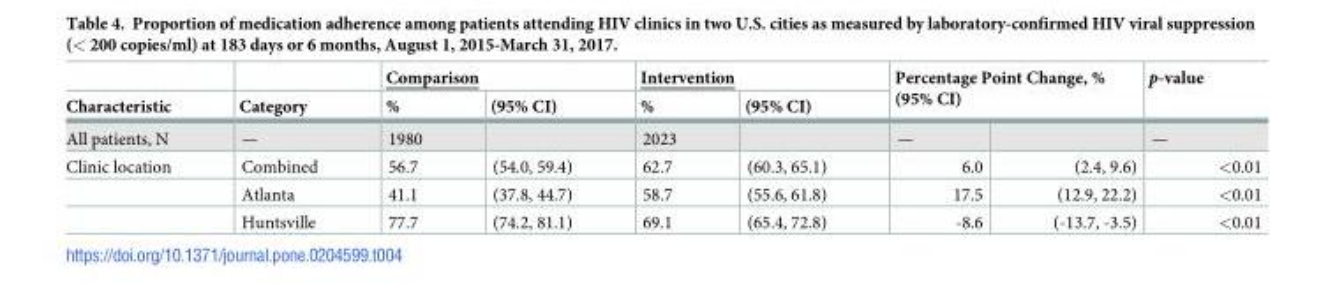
<table><thead><tr><td rowspan="3">Characteristic All patients, N</td><td rowspan="3">Category —</td><td colspan="2">Comparison</td><td colspan="2">Intervention</td><td rowspan="2" colspan="2">Percentage Point Change, % (95% CI)</td><td rowspan="3">p-value —</td></tr><tr><td rowspan="2">% 1980</td><td rowspan="2">(95% CI)</td><td rowspan="2">% 2023</td><td rowspan="2">(95% CI)</td></tr><tr><td>—</td><td></td></tr></thead><tbody><tr><td rowspan="3">Clinic location</td><td>Combined</td><td>56.7</td><td>(54.0, 59.4)</td><td>62.7</td><td>(60.3, 65.1)</td><td>6.0</td><td>(2.4, 9.6)</td><td>&lt;0.01</td></tr><tr><td>Atlanta</td><td>41.1</td><td>(37.8, 44.7)</td><td>58.7</td><td>(55.6, 61.8)</td><td>17.5</td><td>(12.9, 22.2)</td><td>&lt;0.01</td></tr><tr><td>Huntsville</td><td>77.7</td><td>(74.2, 81.1)</td><td>69.1</td><td>(65.4, 72.8)</td><td>-8.6</td><td>(-13.7, -3.5)</td><td>&lt;0.01</td></tr></tbody></table>